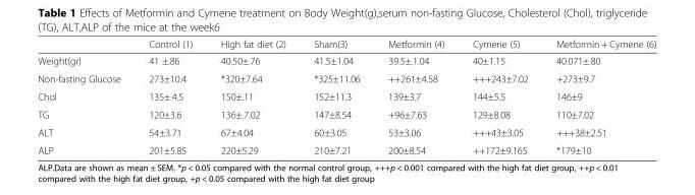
<table><thead><tr><td></td><td>Control (1)</td><td>High fat diet (2)</td><td>Sham(3)</td><td>Metformin (4)</td><td>Cymene (5)</td><td>Metformin + Cymene (6)</td></tr></thead><tbody><tr><td>Weight(gr)</td><td>41 ±.86</td><td>40.50±.76</td><td>41.5±1.04</td><td>39.5±.1.04</td><td>40±1.15</td><td>40.071±.80</td></tr><tr><td>Non-fasting Glucose</td><td>273±10.4</td><td>*320±7.64</td><td>*325±11.06</td><td>++261±4.58</td><td>+++243±7.02</td><td>+273±9.7</td></tr><tr><td>Chol</td><td>135±.4.5</td><td>150±.11</td><td>152±11.3</td><td>139±3.7</td><td>144±5.5</td><td>146±9</td></tr><tr><td>TG</td><td>120±3.6</td><td>136±.7.02</td><td>147±8.54</td><td>+96±7.63</td><td>129±8.08</td><td>110±7.02</td></tr><tr><td>ALT</td><td>54±3.71</td><td>67±4.04</td><td>60±3.05</td><td>53±3.06</td><td>+++43±3.05</td><td>+++38±2.51</td></tr><tr><td>ALP</td><td>201±5.85</td><td>220±5.29</td><td>210±7.21</td><td>200±8.54</td><td>++172±9.165</td><td>*179±10</td></tr></tbody></table>